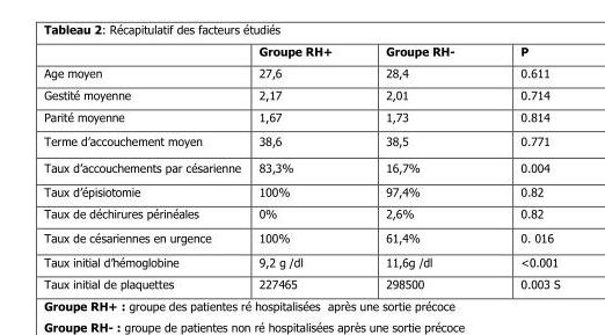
<table><thead><tr><td></td><td>Groupe RH+</td><td>Groupe RH-</td><td>P</td></tr></thead><tbody><tr><td>Age moyen</td><td>27,6</td><td>28,4</td><td>0.611</td></tr><tr><td>Gestité moyenne</td><td>2,17</td><td>2,01</td><td>0.714</td></tr><tr><td>Parité moyenne</td><td>1,67</td><td>1,73</td><td>0.814</td></tr><tr><td>Terme d’accouchement moyen</td><td>38,6</td><td>38,5</td><td>0.771</td></tr><tr><td>Taux d’accouchements par césarienne</td><td>83,3%</td><td>16,7%</td><td>0.004</td></tr><tr><td>Taux d’épisiotomie</td><td>100%</td><td>97,4%</td><td>0.82</td></tr><tr><td>Taux de déchirures périnéales</td><td>0%</td><td>2,6%</td><td>0.82</td></tr><tr><td>Taux de césariennes en urgence</td><td>100%</td><td>61,4%</td><td>0. 016</td></tr><tr><td>Taux initial d’hémoglobine</td><td>9,2 g /dl</td><td>11,6g /dl</td><td>&lt;0.001</td></tr><tr><td>Taux initial de plaquettes</td><td>227465</td><td>298500</td><td>0.003 S</td></tr></tbody></table>